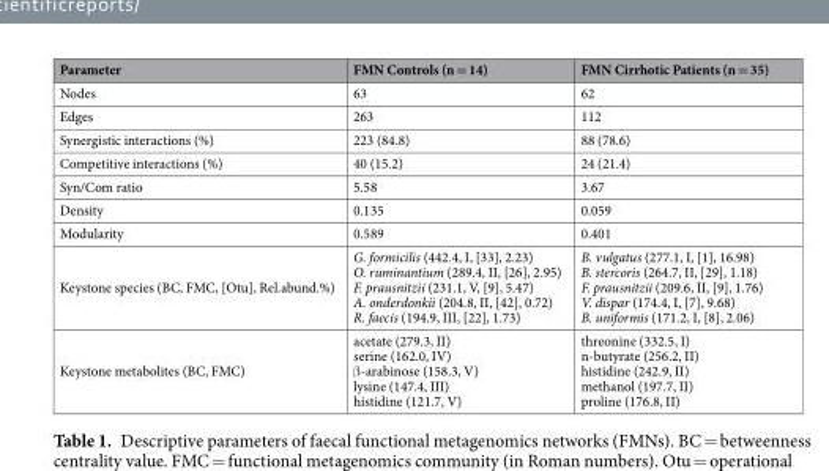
<table><thead><tr><td>Parameter</td><td>FMN Controls (n = 14)</td><td>FMN Cirrhotic Patients (n = 35)</td></tr></thead><tbody><tr><td>Nodes</td><td>63</td><td>62</td></tr><tr><td>Edges</td><td>263</td><td>112</td></tr><tr><td>Synergistic interactions (%)</td><td>223 (84.8)</td><td>88 (78.6)</td></tr><tr><td>Competitive interactions (%)</td><td>40 (15.2)</td><td>24 (21.4)</td></tr><tr><td>Syn/Com ratio</td><td>5.58</td><td>3.67</td></tr><tr><td>Density</td><td>0.135</td><td>0.059</td></tr><tr><td>Modularity</td><td>0.589</td><td>0.401</td></tr><tr><td>Keystone species (BC, FMC, [Otu], Rel.abund.%)</td><td>G. formicilis (442.4, I, [33], 2.23) O. ruminantium (289.4, II, [26], 2.95) F. prausnitzii (231.1, V, [9], 5.47) A. onderdonkii (204.8, II, [42], 0.72) R. faecis (194.9, III, [22], 1.73)</td><td>B. vulgatus (277.1, I, [1], 16.98) B. stercoris (264.7, II, [29], 1.18) F. prausnitzii (209.6, II, [9], 1.76) V. dispar (174.4, I, [7], 9.68) B. uniformis (171.2, I, [8], 2.06)</td></tr><tr><td>Keystone metabolites (BC, FMC)</td><td>acetate (279.3, II) serine (162.0, IV) β-arabinose (158.3, V) lysine (147.4, III) histidine (121.7, V)</td><td>threonine (332.5, I) n-butyrate (256.2, II) histidine (242.9, II) methanol (197.7, II) proline (176.8, II)</td></tr></tbody></table>